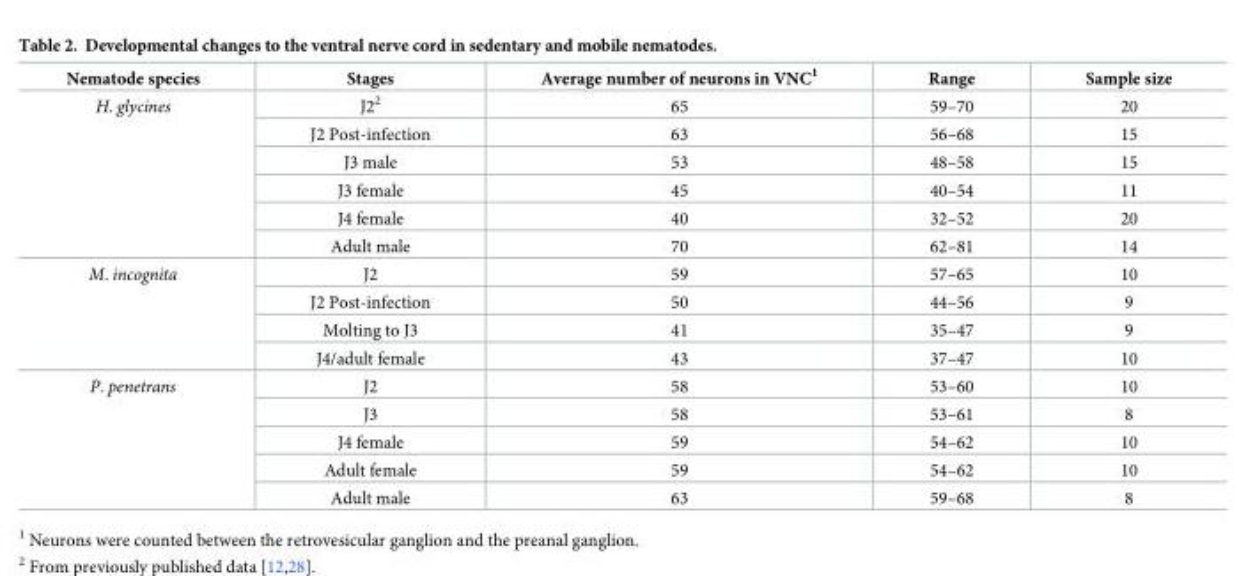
<table><thead><tr><td>Nematode species</td><td>Stages</td><td>Average number of neurons in VNC<sup>1</sup></td><td>Range</td><td>Sample size</td></tr></thead><tbody><tr><td rowspan="6">H. glycines</td><td>J2<sup>2</sup></td><td>65</td><td>59–70</td><td>20</td></tr><tr><td>J2 Post-infection</td><td>63</td><td>56–68</td><td>15</td></tr><tr><td>J3 male</td><td>53</td><td>48–58</td><td>15</td></tr><tr><td>J3 female</td><td>45</td><td>40–54</td><td>11</td></tr><tr><td>J4 female</td><td>40</td><td>32–52</td><td>20</td></tr><tr><td>Adult male</td><td>70</td><td>62–81</td><td>14</td></tr><tr><td rowspan="4">M. incognita</td><td>J2</td><td>59</td><td>57–65</td><td>10</td></tr><tr><td>J2 Post-infection</td><td>50</td><td>44–56</td><td>9</td></tr><tr><td>Molting to J3</td><td>41</td><td>35–47</td><td>9</td></tr><tr><td>J4/adult female</td><td>43</td><td>37–47</td><td>10</td></tr><tr><td rowspan="5">P. penetrans</td><td>J2</td><td>58</td><td>53–60</td><td>10</td></tr><tr><td>J3</td><td>58</td><td>53–61</td><td>8</td></tr><tr><td>J4 female</td><td>59</td><td>54–62</td><td>10</td></tr><tr><td>Adult female</td><td>59</td><td>54–62</td><td>10</td></tr><tr><td>Adult male</td><td>63</td><td>59–68</td><td>8</td></tr></tbody></table>